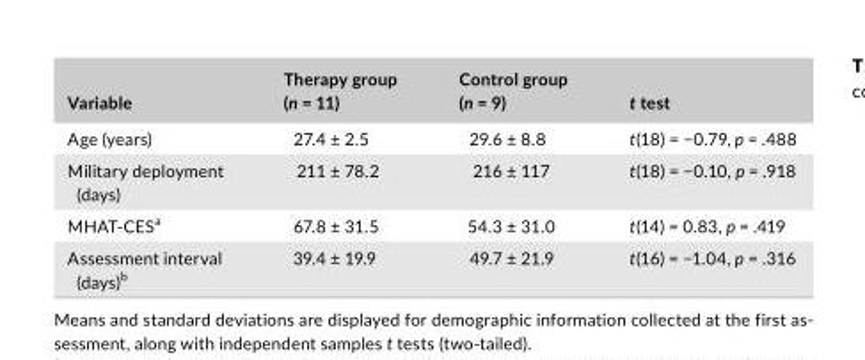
<table><thead><tr><td>Variable</td><td>Therapy group (n = 11)</td><td>Control group (n = 9)</td><td>t test</td></tr></thead><tbody><tr><td>Age (years)</td><td>27.4 ± 2.5</td><td>29.6 ± 8.8</td><td>t(18) = −0.79, p = .488</td></tr><tr><td>Military deployment (days)</td><td>211 ± 78.2</td><td>216 ± 117</td><td>t(18) = −0.10, p = .918</td></tr><tr><td>MHAT- CES<sup>a</sup></td><td>67.8 ± 31.5</td><td>54.3 ± 31.0</td><td>t(14) = 0.83, p = .419</td></tr><tr><td>Assessment interval (days)<sup>b</sup></td><td>39.4 ± 19.9</td><td>49.7 ± 21.9</td><td>t(16) = −1.04, p = .316</td></tr></tbody></table>